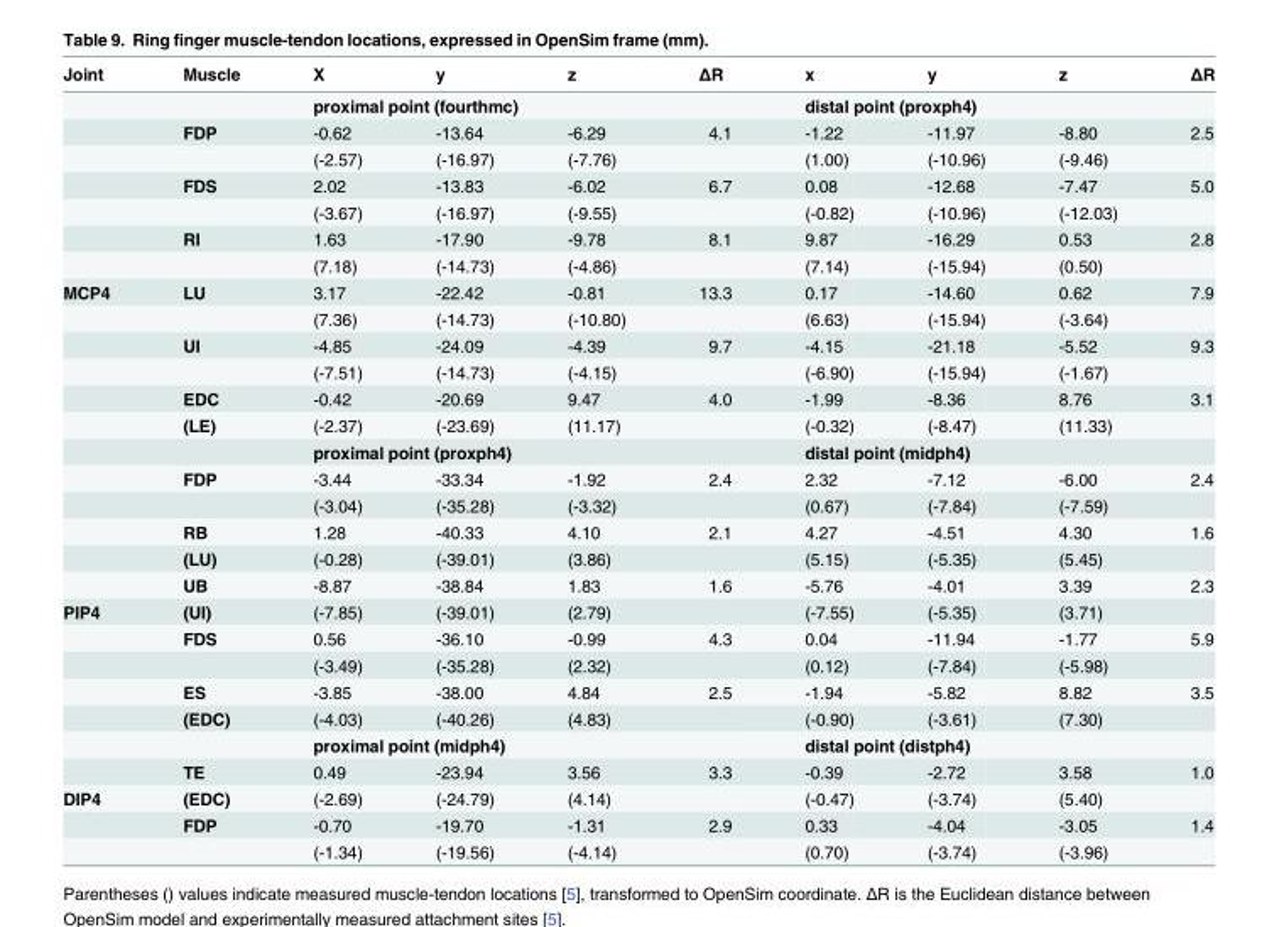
<table><thead><tr><td>Joint</td><td>Muscle</td><td>X</td><td>y</td><td>z</td><td>ΔR</td><td>x</td><td>y</td><td>z</td><td>ΔR</td></tr></thead><tbody><tr><td></td><td></td><td colspan="4">proximal point (fourthmc)</td><td colspan="4">distal point (proxph4)</td></tr><tr><td></td><td>FDP</td><td>-0.62</td><td>-13.64</td><td>-6.29</td><td>4.1</td><td>-1.22</td><td>-11.97</td><td>-8.80</td><td>2.5</td></tr><tr><td></td><td></td><td>(-2.57)</td><td>(-16.97)</td><td>(-7.76)</td><td></td><td>(1.00)</td><td>(-10.96)</td><td>(-9.46)</td><td></td></tr><tr><td></td><td>FDS</td><td>2.02</td><td>-13.83</td><td>-6.02</td><td>6.7</td><td>0.08</td><td>-12.68</td><td>-7.47</td><td>5.0</td></tr><tr><td></td><td></td><td>(-3.67)</td><td>(-16.97)</td><td>(-9.55)</td><td></td><td>(-0.82)</td><td>(-10.96)</td><td>(-12.03)</td><td></td></tr><tr><td></td><td>RI</td><td>1.63</td><td>-17.90</td><td>-9.78</td><td>8.1</td><td>9.87</td><td>-16.29</td><td>0.53</td><td>2.8</td></tr><tr><td></td><td></td><td>(7.18)</td><td>(-14.73)</td><td>(-4.86)</td><td></td><td>(7.14)</td><td>(-15.94)</td><td>(0.50)</td><td></td></tr><tr><td rowspan="12">MCP4</td><td>LU</td><td>3.17</td><td>-22.42</td><td>-0.81</td><td>13.3</td><td>0.17</td><td>-14.60</td><td>0.62</td><td>7.9</td></tr><tr><td></td><td>(7.36)</td><td>(-14.73)</td><td>(-10.80)</td><td></td><td>(6.63)</td><td>(-15.94)</td><td>(-3.64)</td><td></td></tr><tr><td>UI</td><td>-4.85</td><td>-24.09</td><td>-4.39</td><td>9.7</td><td>-4.15</td><td>-21.18</td><td>-5.52</td><td>9.3</td></tr><tr><td></td><td>(-7.51)</td><td>(-14.73)</td><td>(-4.15)</td><td></td><td>(-6.90)</td><td>(-15.94)</td><td>(-1.67)</td><td></td></tr><tr><td>EDC</td><td>-0.42</td><td>-20.69</td><td>9.47</td><td>4.0</td><td>-1.99</td><td>-8.36</td><td>8.76</td><td>3.1</td></tr><tr><td>(LE)</td><td>(-2.37)</td><td>(-23.69)</td><td>(11.17)</td><td></td><td>(-0.32)</td><td>(-8.47)</td><td>(11.33)</td><td></td></tr><tr><td></td><td colspan="4">proximal point (proxph4)</td><td colspan="4">distal point (midph4)</td></tr><tr><td>FDP</td><td>-3.44</td><td>-33.34</td><td>-1.92</td><td>2.4</td><td>2.32</td><td>-7.12</td><td>-6.00</td><td>2.4</td></tr><tr><td></td><td>(-3.04)</td><td>(-35.28)</td><td>(-3.32)</td><td></td><td>(0.67)</td><td>(-7.84)</td><td>(-7.59)</td><td></td></tr><tr><td>RB</td><td>1.28</td><td>-40.33</td><td>4.10</td><td>2.1</td><td>4.27</td><td>-4.51</td><td>4.30</td><td>1.6</td></tr><tr><td>(LU)</td><td>(-0.28)</td><td>(-39.01)</td><td>(3.86)</td><td></td><td>(5.15)</td><td>(-5.35)</td><td>(5.45)</td><td></td></tr><tr><td>UB</td><td>-8.87</td><td>-38.84</td><td>1.83</td><td>1.6</td><td>-5.76</td><td>-4.01</td><td>3.39</td><td>2.3</td></tr><tr><td rowspan="7">PIP4</td><td>(UI)</td><td>(-7.85)</td><td>(-39.01)</td><td>(2.79)</td><td></td><td>(-7.55)</td><td>(-5.35)</td><td>(3.71)</td><td></td></tr><tr><td>FDS</td><td>0.56</td><td>-36.10</td><td>-0.99</td><td>4.3</td><td>0.04</td><td>-11.94</td><td>-1.77</td><td>5.9</td></tr><tr><td></td><td>(-3.49)</td><td>(-35.28)</td><td>(2.32)</td><td></td><td>(0.12)</td><td>(-7.84)</td><td>(-5.98)</td><td></td></tr><tr><td>ES</td><td>-3.85</td><td>-38.00</td><td>4.84</td><td>2.5</td><td>-1.94</td><td>-5.82</td><td>8.82</td><td>3.5</td></tr><tr><td>(EDC)</td><td>(-4.03)</td><td>(-40.26)</td><td>(4.83)</td><td></td><td>(-0.90)</td><td>(-3.61)</td><td>(7.30)</td><td></td></tr><tr><td></td><td colspan="4">proximal point (midph4)</td><td colspan="4">distal point (distph4)</td></tr><tr><td>TE</td><td>0.49</td><td>-23.94</td><td>3.56</td><td>3.3</td><td>-0.39</td><td>-2.72</td><td>3.58</td><td>1.0</td></tr><tr><td rowspan="3">DIP4</td><td>(EDC)</td><td>(-2.69)</td><td>(-24.79)</td><td>(4.14)</td><td></td><td>(-0.47)</td><td>(-3.74)</td><td>(5.40)</td><td></td></tr><tr><td>FDP</td><td>-0.70</td><td>-19.70</td><td>-1.31</td><td>2.9</td><td>0.33</td><td>-4.04</td><td>-3.05</td><td>1.4</td></tr><tr><td></td><td>(-1.34)</td><td>(-19.56)</td><td>(-4.14)</td><td></td><td>(0.70)</td><td>(-3.74)</td><td>(-3.96)</td><td></td></tr></tbody></table>